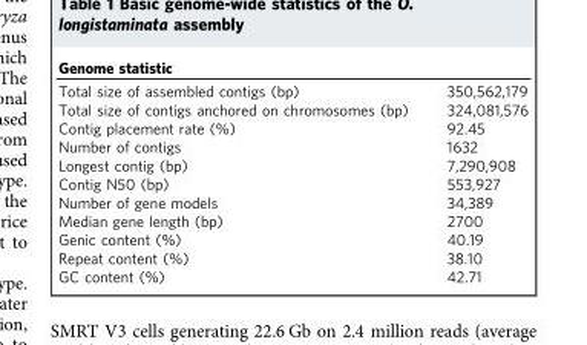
<table><thead><tr><td colspan="2">Genome statistic</td></tr><tr><td>Total size of assembled contigs (bp)</td><td>350,562,179</td></tr></thead><tbody><tr><td>Total size of contigs anchored on chromosomes (bp)</td><td>324,081,576</td></tr><tr><td>Contig placement rate (%)</td><td>92.45</td></tr><tr><td>Number of contigs</td><td>1632</td></tr><tr><td>Longest contig (bp)</td><td>7,290,908</td></tr><tr><td>Contig N50 (bp)</td><td>553,927</td></tr><tr><td>Number of gene models</td><td>34,389</td></tr><tr><td>Median gene length (bp)</td><td>2700</td></tr><tr><td>Genic content (%)</td><td>40.19</td></tr><tr><td>Repeat content (%)</td><td>38.10</td></tr><tr><td>GC content (%)</td><td>42.71</td></tr></tbody></table>